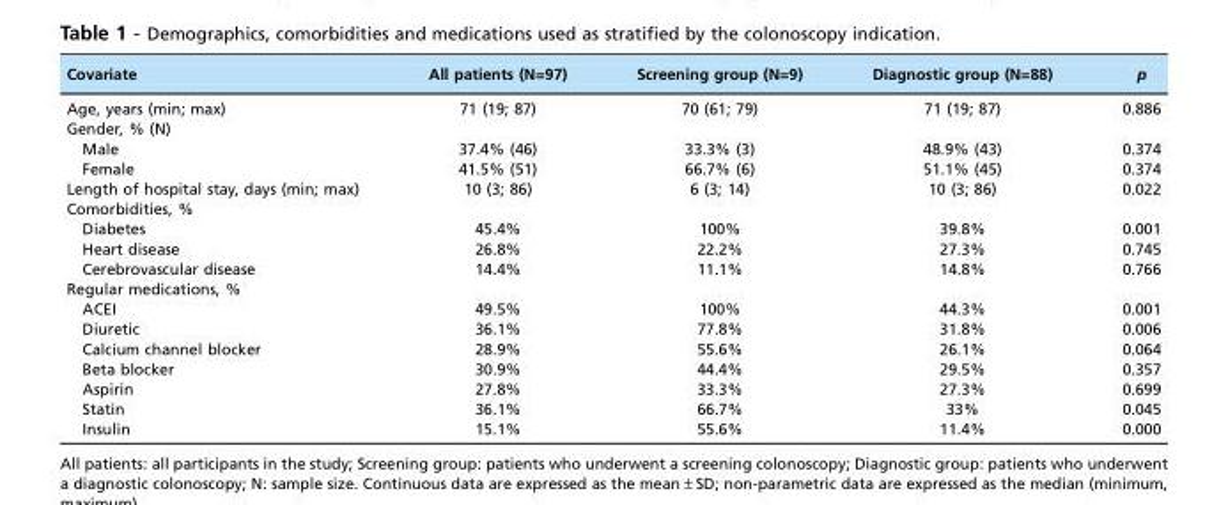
<table><thead><tr><td>Covariate</td><td>All patients (N=97)</td><td>Screening group (N=9)</td><td>Diagnostic group (N=88)</td><td>p</td></tr></thead><tbody><tr><td>Age, years (min; max)</td><td>71 (19; 87)</td><td>70 (61; 79)</td><td>71 (19; 87)</td><td>0.886</td></tr><tr><td colspan="5">Gender, % (N)</td></tr><tr><td>Male</td><td>37.4% (46)</td><td>33.3% (3)</td><td>48.9% (43)</td><td>0.374</td></tr><tr><td>Female</td><td>41.5% (51)</td><td>66.7% (6)</td><td>51.1% (45)</td><td>0.374</td></tr><tr><td>Length of hospital stay, days (min; max)</td><td>10 (3; 86)</td><td>6 (3; 14)</td><td>10 (3; 86)</td><td>0.022</td></tr><tr><td colspan="5">Comorbidities, %</td></tr><tr><td>Diabetes</td><td>45.4%</td><td>100%</td><td>39.8%</td><td>0.001</td></tr><tr><td>Heart disease</td><td>26.8%</td><td>22.2%</td><td>27.3%</td><td>0.745</td></tr><tr><td>Cerebrovascular disease</td><td>14.4%</td><td>11.1%</td><td>14.8%</td><td>0.766</td></tr><tr><td colspan="5">Regular medications, %</td></tr><tr><td>ACEI</td><td>49.5%</td><td>100%</td><td>44.3%</td><td>0.001</td></tr><tr><td>Diuretic</td><td>36.1%</td><td>77.8%</td><td>31.8%</td><td>0.006</td></tr><tr><td>Calcium channel blocker</td><td>28.9%</td><td>55.6%</td><td>26.1%</td><td>0.064</td></tr><tr><td>Beta blocker</td><td>30.9%</td><td>44.4%</td><td>29.5%</td><td>0.357</td></tr><tr><td>Aspirin</td><td>27.8%</td><td>33.3%</td><td>27.3%</td><td>0.699</td></tr><tr><td>Statin</td><td>36.1%</td><td>66.7%</td><td>33%</td><td>0.045</td></tr><tr><td>Insulin</td><td>15.1%</td><td>55.6%</td><td>11.4%</td><td>0.000</td></tr></tbody></table>